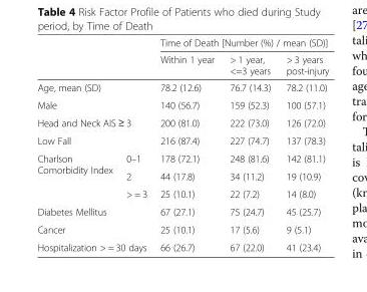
<table><thead><tr><td rowspan="2"></td><td rowspan="2"></td><td colspan="3">Time of Death [Number (%) / mean (SD)]</td></tr><tr><td>Within 1 year</td><td>&gt; 1 year, &lt;=3 years</td><td>&gt; 3 years post-injury</td></tr></thead><tbody><tr><td colspan="2">Age, mean (SD)</td><td>78.2 (12.6)</td><td>76.7 (14.3)</td><td>78.2 (11.0)</td></tr><tr><td colspan="2">Male</td><td>140 (56.7)</td><td>159 (52.3)</td><td>100 (57.1)</td></tr><tr><td colspan="2">Head and Neck AIS ≥ 3</td><td>200 (81.0)</td><td>222 (73.0)</td><td>126 (72.0)</td></tr><tr><td colspan="2">Low Fall</td><td>216 (87.4)</td><td>227 (74.7)</td><td>137 (78.3)</td></tr><tr><td rowspan="3">Charlson Comorbidity Index</td><td>0–1</td><td>178 (72.1)</td><td>248 (81.6)</td><td>142 (81.1)</td></tr><tr><td>2</td><td>44 (17.8)</td><td>34 (11.2)</td><td>19 (10.9)</td></tr><tr><td>&gt; = 3</td><td>25 (10.1)</td><td>22 (7.2)</td><td>14 (8.0)</td></tr><tr><td colspan="2">Diabetes Mellitus</td><td>67 (27.1)</td><td>75 (24.7)</td><td>45 (25.7)</td></tr><tr><td colspan="2">Cancer</td><td>25 (10.1)</td><td>17 (5.6)</td><td>9 (5.1)</td></tr><tr><td colspan="2">Hospitalization &gt; = 30 days</td><td>66 (26.7)</td><td>67 (22.0)</td><td>41 (23.4)</td></tr></tbody></table>